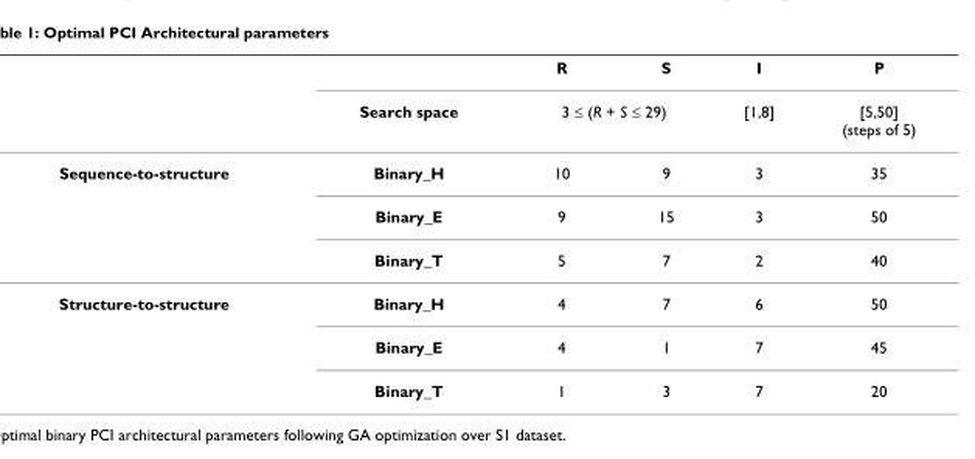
<table><thead><tr><td rowspan="2"></td><td rowspan="2">Search space</td><td>R</td><td>S</td><td rowspan="2">I [1,8]</td><td rowspan="2">P [5,50] (steps of 5)</td></tr><tr><td colspan="2">3 ≤ (R + S ≤ 29)</td></tr></thead><tbody><tr><td rowspan="3">Sequence-to-structure</td><td>Binary_H</td><td>10</td><td>9</td><td>3</td><td>35</td></tr><tr><td>Binary_E</td><td>9</td><td>15</td><td>3</td><td>50</td></tr><tr><td>Binary_T</td><td>5</td><td>7</td><td>2</td><td>40</td></tr><tr><td rowspan="3">Structure-to-structure</td><td>Binary_H</td><td>4</td><td>7</td><td>6</td><td>50</td></tr><tr><td>Binary_E</td><td>4</td><td>1</td><td>7</td><td>45</td></tr><tr><td>Binary_T</td><td>1</td><td>3</td><td>7</td><td>20</td></tr></tbody></table>